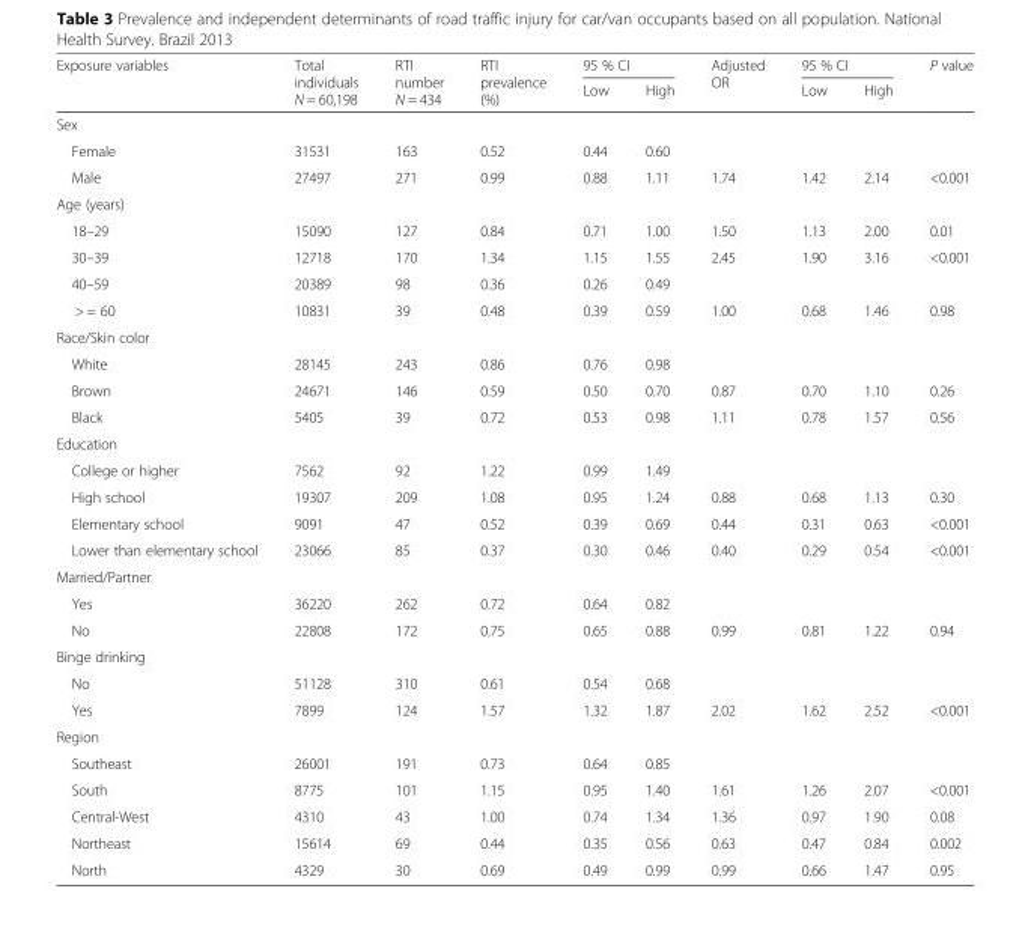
<table><thead><tr><td rowspan="2">Exposure variables</td><td rowspan="2">Total individuals N = 60,198</td><td rowspan="2">RTI number N = 434</td><td rowspan="2">RTI prevalence (%)</td><td colspan="2">95 % CI</td><td rowspan="2">Adjusted OR</td><td colspan="2">95 % CI</td><td rowspan="2">P value</td></tr><tr><td>Low</td><td>High</td><td>Low</td><td>High</td></tr></thead><tbody><tr><td colspan="10">Sex</td></tr><tr><td>Female</td><td>31531</td><td>163</td><td>0.52</td><td>0.44</td><td>0.60</td><td></td><td></td><td></td><td></td></tr><tr><td>Male</td><td>27497</td><td>271</td><td>0.99</td><td>0.88</td><td>1.11</td><td>1.74</td><td>1.42</td><td>2.14</td><td>&lt;0.001</td></tr><tr><td colspan="10">Age (years)</td></tr><tr><td>18–29</td><td>15090</td><td>127</td><td>0.84</td><td>0.71</td><td>1.00</td><td>1.50</td><td>1.13</td><td>2.00</td><td>0.01</td></tr><tr><td>30–39</td><td>12718</td><td>170</td><td>1.34</td><td>1.15</td><td>1.55</td><td>2.45</td><td>1.90</td><td>3.16</td><td>&lt;0.001</td></tr><tr><td>40–59</td><td>20389</td><td>98</td><td>0.36</td><td>0.26</td><td>0.49</td><td></td><td></td><td></td><td></td></tr><tr><td>&gt; = 60</td><td>10831</td><td>39</td><td>0.48</td><td>0.39</td><td>0.59</td><td>1.00</td><td>0.68</td><td>1.46</td><td>0.98</td></tr><tr><td colspan="10">Race/Skin color</td></tr><tr><td>White</td><td>28145</td><td>243</td><td>0.86</td><td>0.76</td><td>0.98</td><td></td><td></td><td></td><td></td></tr><tr><td>Brown</td><td>24671</td><td>146</td><td>0.59</td><td>0.50</td><td>0.70</td><td>0.87</td><td>0.70</td><td>1.10</td><td>0.26</td></tr><tr><td>Black</td><td>5405</td><td>39</td><td>0.72</td><td>0.53</td><td>0.98</td><td>1.11</td><td>0.78</td><td>1.57</td><td>0.56</td></tr><tr><td colspan="10">Education</td></tr><tr><td>College or higher</td><td>7562</td><td>92</td><td>1.22</td><td>0.99</td><td>1.49</td><td></td><td></td><td></td><td></td></tr><tr><td>High school</td><td>19307</td><td>209</td><td>1.08</td><td>0.95</td><td>1.24</td><td>0.88</td><td>0.68</td><td>1.13</td><td>0.30</td></tr><tr><td>Elementary school</td><td>9091</td><td>47</td><td>0.52</td><td>0.39</td><td>0.69</td><td>0.44</td><td>0.31</td><td>0.63</td><td>&lt;0.001</td></tr><tr><td>Lower than elementary school</td><td>23066</td><td>85</td><td>0.37</td><td>0.30</td><td>0.46</td><td>0.40</td><td>0.29</td><td>0.54</td><td>&lt;0.001</td></tr><tr><td colspan="10">Married/Partner</td></tr><tr><td>Yes</td><td>36220</td><td>262</td><td>0.72</td><td>0.64</td><td>0.82</td><td></td><td></td><td></td><td></td></tr><tr><td>No</td><td>22808</td><td>172</td><td>0.75</td><td>0.65</td><td>0.88</td><td>0.99</td><td>0.81</td><td>1.22</td><td>0.94</td></tr><tr><td colspan="10">Binge drinking</td></tr><tr><td>No</td><td>51128</td><td>310</td><td>0.61</td><td>0.54</td><td>0.68</td><td></td><td></td><td></td><td></td></tr><tr><td>Yes</td><td>7899</td><td>124</td><td>1.57</td><td>1.32</td><td>1.87</td><td>2.02</td><td>1.62</td><td>2.52</td><td>&lt;0.001</td></tr><tr><td colspan="10">Region</td></tr><tr><td>Southeast</td><td>26001</td><td>191</td><td>0.73</td><td>0.64</td><td>0.85</td><td></td><td></td><td></td><td></td></tr><tr><td>South</td><td>8775</td><td>101</td><td>1.15</td><td>0.95</td><td>1.40</td><td>1.61</td><td>1.26</td><td>2.07</td><td>&lt;0.001</td></tr><tr><td>Central-West</td><td>4310</td><td>43</td><td>1.00</td><td>0.74</td><td>1.34</td><td>1.36</td><td>0.97</td><td>1.90</td><td>0.08</td></tr><tr><td>Northeast</td><td>15614</td><td>69</td><td>0.44</td><td>0.35</td><td>0.56</td><td>0.63</td><td>0.47</td><td>0.84</td><td>0.002</td></tr><tr><td>North</td><td>4329</td><td>30</td><td>0.69</td><td>0.49</td><td>0.99</td><td>0.99</td><td>0.66</td><td>1.47</td><td>0.95</td></tr></tbody></table>